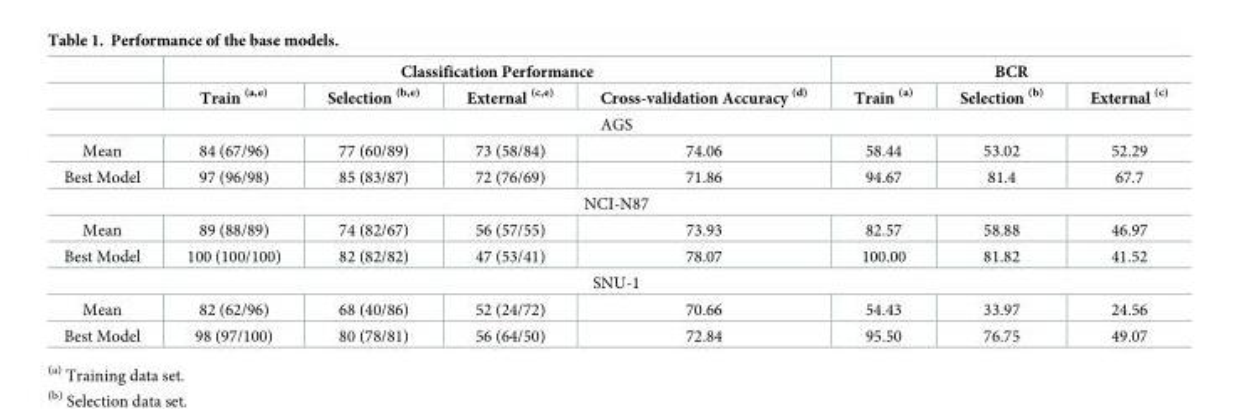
<table><thead><tr><td rowspan="2"></td><td colspan="4">Classification Performance</td><td colspan="3">BCR</td></tr><tr><td>Train <sup>(a,e)</sup></td><td>Selection <sup>(b,e)</sup></td><td>External <sup>(c,e)</sup></td><td>Cross-validation Accuracy <sup>(d)</sup></td><td>Train <sup>(a)</sup></td><td>Selection <sup>(b)</sup></td><td>External <sup>(c)</sup></td></tr></thead><tbody><tr><td colspan="8">AGS</td></tr><tr><td>Mean</td><td>84 (67/96)</td><td>77 (60/89)</td><td>73 (58/84)</td><td>74.06</td><td>58.44</td><td>53.02</td><td>52.29</td></tr><tr><td>Best Model</td><td>97 (96/98)</td><td>85 (83/87)</td><td>72 (76/69)</td><td>71.86</td><td>94.67</td><td>81.4</td><td>67.7</td></tr><tr><td colspan="8">NCI-N87</td></tr><tr><td>Mean</td><td>89 (88/89)</td><td>74 (82/67)</td><td>56 (57/55)</td><td>73.93</td><td>82.57</td><td>58.88</td><td>46.97</td></tr><tr><td>Best Model</td><td>100 (100/100)</td><td>82 (82/82)</td><td>47 (53/41)</td><td>78.07</td><td>100.00</td><td>81.82</td><td>41.52</td></tr><tr><td colspan="8">SNU-1</td></tr><tr><td>Mean</td><td>82 (62/96)</td><td>68 (40/86)</td><td>52 (24/72)</td><td>70.66</td><td>54.43</td><td>33.97</td><td>24.56</td></tr><tr><td>Best Model</td><td>98 (97/100)</td><td>80 (78/81)</td><td>56 (64/50)</td><td>72.84</td><td>95.50</td><td>76.75</td><td>49.07</td></tr></tbody></table>